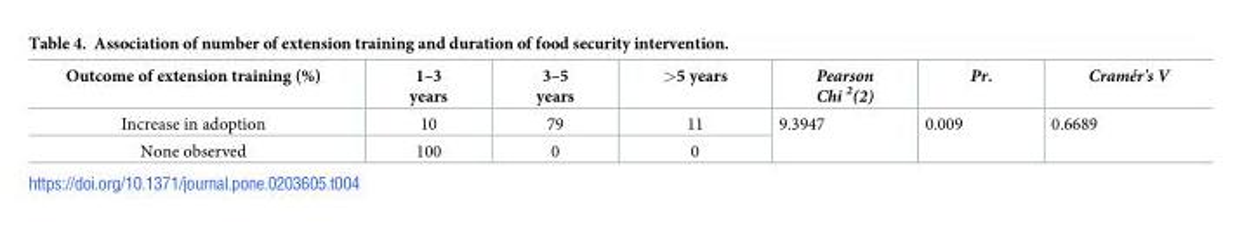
<table><thead><tr><td>Outcome of extension training (%)</td><td>1–3 years</td><td>3–5 years</td><td>&gt;5 years</td><td>Pearson Chi <sup>2</sup>(2)</td><td>Pr.</td><td>Cramér&#x27;s V</td></tr></thead><tbody><tr><td>Increase in adoption</td><td>10</td><td>79</td><td>11</td><td rowspan="2">9.3947</td><td rowspan="2">0.009</td><td rowspan="2">0.6689</td></tr><tr><td>None observed</td><td>100</td><td>0</td><td>0</td></tr></tbody></table>